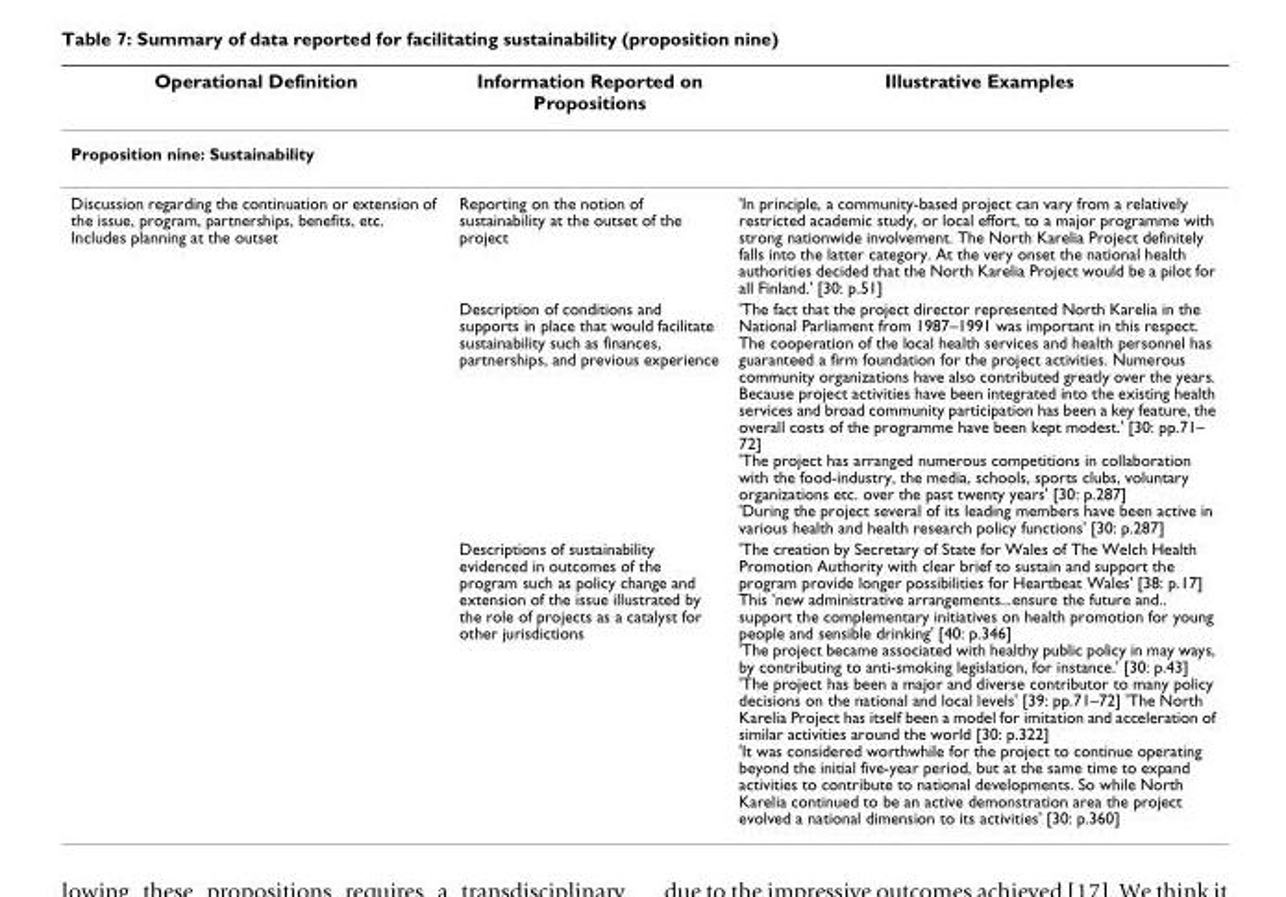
<table><thead><tr><td>Operational Definition</td><td>Information Reported on Propositions</td><td>Illustrative Examples</td></tr></thead><tbody><tr><td colspan="3">Proposition nine: Sustainability</td></tr><tr><td rowspan="3">Discussion regarding the continuation or extension of the issue, program, partnerships, benefits, etc. Includes planning at the outset</td><td>Reporting on the notion of sustainability at the outset of the project</td><td>&#x27;In principle, a community-based project can vary from a relatively restricted academic study, or local effort, to a major programme with strong nationwide involvement. The North Karelia Project definitely falls into the latter category. At the very onset the national health authorities decided that the North Karelia Project would be a pilot for all Finland.&#x27; [30: p.51]</td></tr><tr><td>Description of conditions and supports in place that would facilitate sustainability such as finances, partnerships, and previous experience</td><td>&#x27;The fact that the project director represented North Karelia in the National Parliament from 1987–1991 was important in this respect. The cooperation of the local health services and health personnel has guaranteed a firm foundation for the project activities. Numerous community organizations have also contributed greatly over the years. Because project activities have been integrated into the existing health services and broad community participation has been a key feature, the overall costs of the programme have been kept modest.&#x27; [30: pp.71– 72] &#x27;The project has arranged numerous competitions in collaboration with the food-industry, the media, schools, sports clubs, voluntary organizations etc. over the past twenty years&#x27; [30: p.287] &#x27;During the project several of its leading members have been active in various health and health research policy functions&#x27; [30: p.287]</td></tr><tr><td>Descriptions of sustainability evidenced in outcomes of the program such as policy change and extension of the issue illustrated by the role of projects as a catalyst for other jurisdictions</td><td>&#x27;The creation by Secretary of State for Wales of The Welch Health Promotion Authority with clear brief to sustain and support the program provide longer possibilities for Heartbeat Wales&#x27; [38: p.17] This &#x27;new administrative arrangements...ensure the future and.. support the complementary initiatives on health promotion for young people and sensible drinking&#x27; [40: p.346] &#x27;The project became associated with healthy public policy in may ways, by contributing to anti-smoking legislation, for instance.&#x27; [30: p.43] &#x27;The project has been a major and diverse contributor to many policy decisions on the national and local levels&#x27; [39: pp.71–72] &#x27;The North Karelia Project has itself been a model for imitation and acceleration of similar activities around the world [30: p.322] &#x27;It was considered worthwhile for the project to continue operating beyond the initial five-year period, but at the same time to expand activities to contribute to national developments. So while North Karelia continued to be an active demonstration area the project evolved a national dimension to its activities&#x27; [30: p.360]</td></tr></tbody></table>